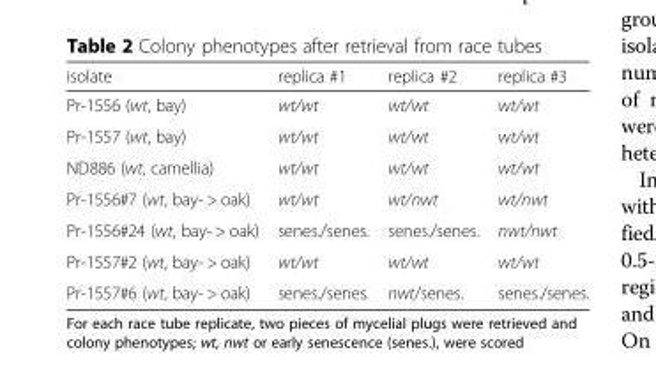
<table><thead><tr><td>isolate</td><td>replica #1</td><td>replica #2</td><td>replica #3</td></tr></thead><tbody><tr><td>Pr-1556 (wt, bay)</td><td>wt/wt</td><td>wt/wt</td><td>wt/wt</td></tr><tr><td>Pr-1557 (wt, bay)</td><td>wt/wt</td><td>wt/wt</td><td>wt/wt</td></tr><tr><td>ND886 (wt, camellia)</td><td>wt/wt</td><td>wt/wt</td><td>wt/wt</td></tr><tr><td>Pr-1556#7 (wt, bay- &gt; oak)</td><td>wt/wt</td><td>wt/nwt</td><td>wt/nwt</td></tr><tr><td>Pr-1556#24 (wt, bay- &gt; oak)</td><td>senes./senes.</td><td>senes./senes.</td><td>nwt/nwt</td></tr><tr><td>Pr-1557#2 (wt, bay- &gt; oak)</td><td>wt/wt</td><td>wt/wt</td><td>wt/wt</td></tr><tr><td>Pr-1557#6 (wt, bay- &gt; oak)</td><td>senes./senes.</td><td>nwt/senes.</td><td>senes./senes.</td></tr></tbody></table>